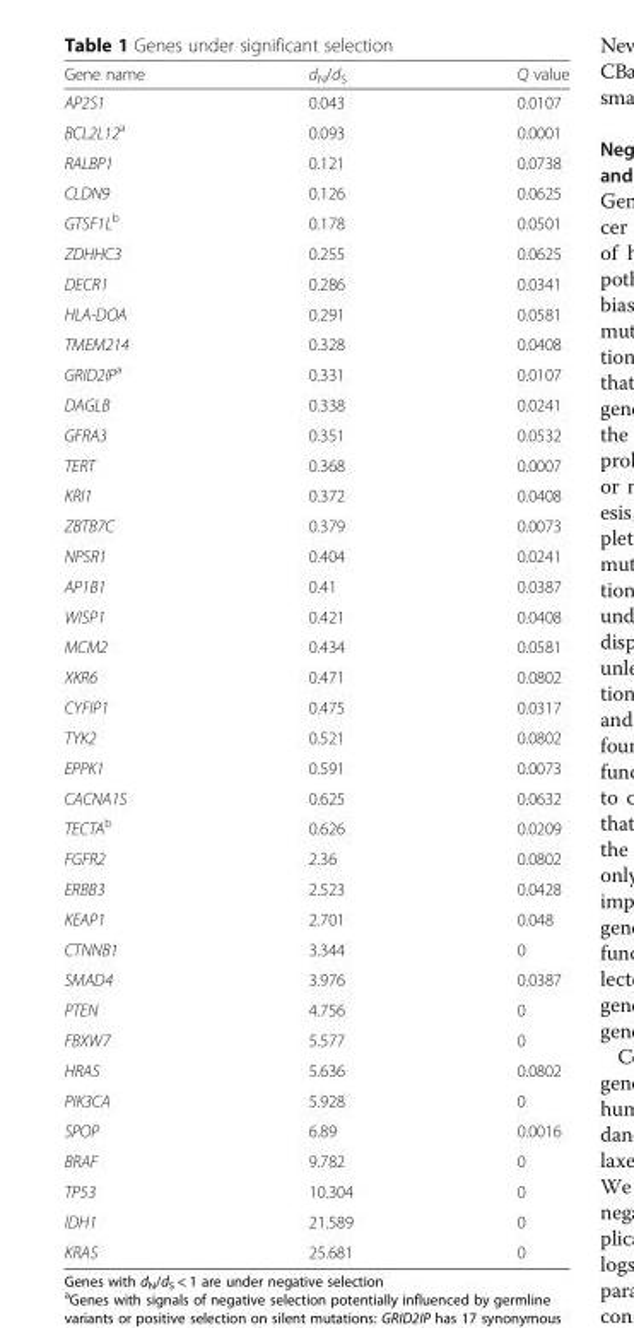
<table><thead><tr><td>Gene name</td><td>d<sub>N</sub>/d<sub>S</sub></td><td>Q value</td></tr></thead><tbody><tr><td>AP2S1</td><td>0.043</td><td>0.0107</td></tr><tr><td>BCL2L12<sup>a</sup></td><td>0.093</td><td>0.0001</td></tr><tr><td>RALBP1</td><td>0.121</td><td>0.0738</td></tr><tr><td>CLDN9</td><td>0.126</td><td>0.0625</td></tr><tr><td>GTSF1L<sup>b</sup></td><td>0.178</td><td>0.0501</td></tr><tr><td>ZDHHC3</td><td>0.255</td><td>0.0625</td></tr><tr><td>DECR1</td><td>0.286</td><td>0.0341</td></tr><tr><td>HLA-DOA</td><td>0.291</td><td>0.0581</td></tr><tr><td>TMEM214</td><td>0.328</td><td>0.0408</td></tr><tr><td>GRID2IP<sup>a</sup></td><td>0.331</td><td>0.0107</td></tr><tr><td>DAGLB</td><td>0.338</td><td>0.0241</td></tr><tr><td>GFRA3</td><td>0.351</td><td>0.0532</td></tr><tr><td>TERT</td><td>0.368</td><td>0.0007</td></tr><tr><td>KRI1</td><td>0.372</td><td>0.0408</td></tr><tr><td>ZBTB7C</td><td>0.379</td><td>0.0073</td></tr><tr><td>NPSR1</td><td>0.404</td><td>0.0241</td></tr><tr><td>AP1B1</td><td>0.41</td><td>0.0387</td></tr><tr><td>WISP1</td><td>0.421</td><td>0.0408</td></tr><tr><td>MCM2</td><td>0.434</td><td>0.0581</td></tr><tr><td>XKR6</td><td>0.471</td><td>0.0802</td></tr><tr><td>CYFIP1</td><td>0.475</td><td>0.0317</td></tr><tr><td>TYK2</td><td>0.521</td><td>0.0802</td></tr><tr><td>EPPK1</td><td>0.591</td><td>0.0073</td></tr><tr><td>CACNA1S</td><td>0.625</td><td>0.0632</td></tr><tr><td>TECTA<sup>b</sup></td><td>0.626</td><td>0.0209</td></tr><tr><td>FGFR2</td><td>2.36</td><td>0.0802</td></tr><tr><td>ERBB3</td><td>2.523</td><td>0.0428</td></tr><tr><td>KEAP1</td><td>2.701</td><td>0.048</td></tr><tr><td>CTNNB1</td><td>3.344</td><td>0</td></tr><tr><td>SMAD4</td><td>3.976</td><td>0.0387</td></tr><tr><td>PTEN</td><td>4.756</td><td>0</td></tr><tr><td>FBXW7</td><td>5.577</td><td>0</td></tr><tr><td>HRAS</td><td>5.636</td><td>0.0802</td></tr><tr><td>PIK3CA</td><td>5.928</td><td>0</td></tr><tr><td>SPOP</td><td>6.89</td><td>0.0016</td></tr><tr><td>BRAF</td><td>9.782</td><td>0</td></tr><tr><td>TP53</td><td>10.304</td><td>0</td></tr><tr><td>IDH1</td><td>21.589</td><td>0</td></tr><tr><td>KRAS</td><td>25.681</td><td>0</td></tr></tbody></table>